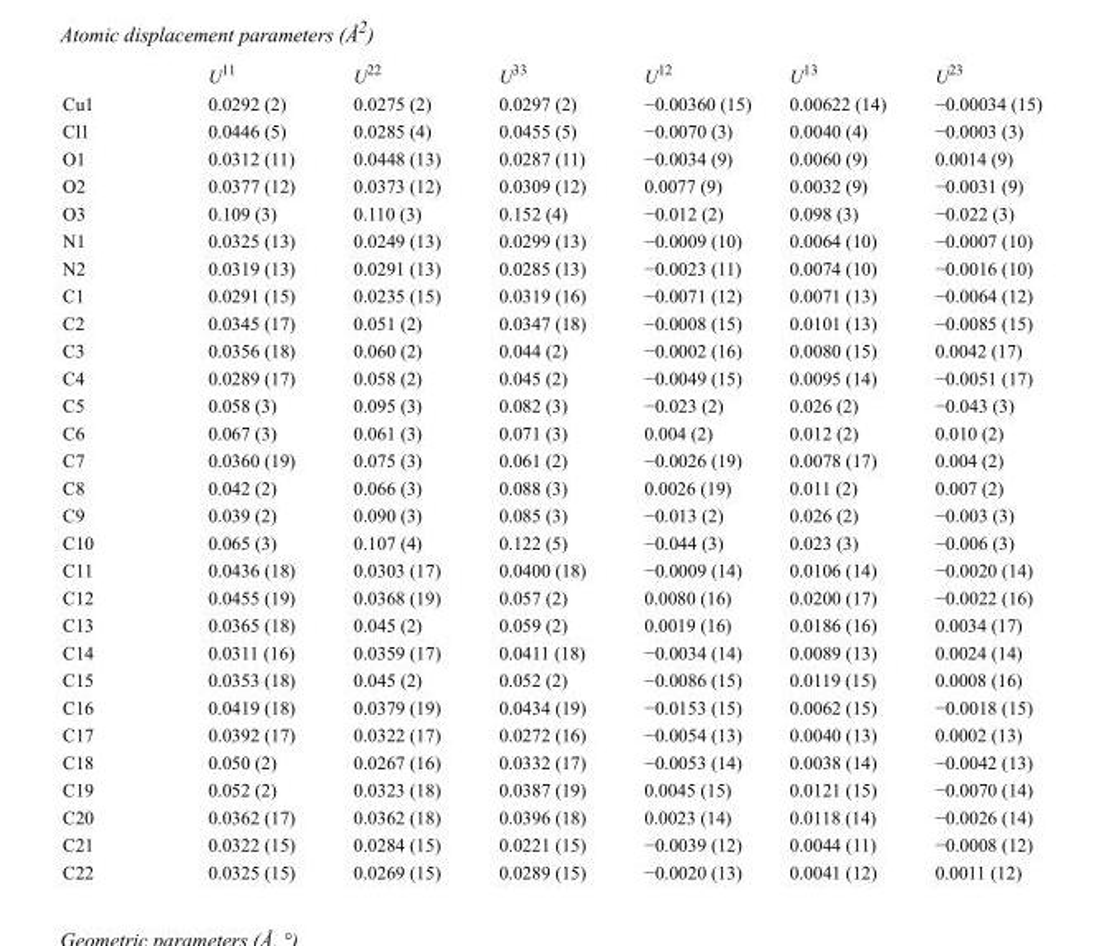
<table><thead><tr><td></td><td>U<sup>11</sup></td><td>U<sup>22</sup></td><td>U<sup>33</sup></td><td>U<sup>12</sup></td><td>U<sup>13</sup></td><td>U<sup>23</sup></td></tr></thead><tbody><tr><td>Cu1</td><td>0.0292 (2)</td><td>0.0275 (2)</td><td>0.0297 (2)</td><td>−0.00360 (15)</td><td>0.00622 (14)</td><td>−0.00034 (15)</td></tr><tr><td>Cl1</td><td>0.0446 (5)</td><td>0.0285 (4)</td><td>0.0455 (5)</td><td>−0.0070 (3)</td><td>0.0040 (4)</td><td>−0.0003 (3)</td></tr><tr><td>O1</td><td>0.0312 (11)</td><td>0.0448 (13)</td><td>0.0287 (11)</td><td>−0.0034 (9)</td><td>0.0060 (9)</td><td>0.0014 (9)</td></tr><tr><td>O2</td><td>0.0377 (12)</td><td>0.0373 (12)</td><td>0.0309 (12)</td><td>0.0077 (9)</td><td>0.0032 (9)</td><td>−0.0031 (9)</td></tr><tr><td>O3</td><td>0.109 (3)</td><td>0.110 (3)</td><td>0.152 (4)</td><td>−0.012 (2)</td><td>0.098 (3)</td><td>−0.022 (3)</td></tr><tr><td>N1</td><td>0.0325 (13)</td><td>0.0249 (13)</td><td>0.0299 (13)</td><td>−0.0009 (10)</td><td>0.0064 (10)</td><td>−0.0007 (10)</td></tr><tr><td>N2</td><td>0.0319 (13)</td><td>0.0291 (13)</td><td>0.0285 (13)</td><td>−0.0023 (11)</td><td>0.0074 (10)</td><td>−0.0016 (10)</td></tr><tr><td>C1</td><td>0.0291 (15)</td><td>0.0235 (15)</td><td>0.0319 (16)</td><td>−0.0071 (12)</td><td>0.0071 (13)</td><td>−0.0064 (12)</td></tr><tr><td>C2</td><td>0.0345 (17)</td><td>0.051 (2)</td><td>0.0347 (18)</td><td>−0.0008 (15)</td><td>0.0101 (13)</td><td>−0.0085 (15)</td></tr><tr><td>C3</td><td>0.0356 (18)</td><td>0.060 (2)</td><td>0.044 (2)</td><td>−0.0002 (16)</td><td>0.0080 (15)</td><td>0.0042 (17)</td></tr><tr><td>C4</td><td>0.0289 (17)</td><td>0.058 (2)</td><td>0.045 (2)</td><td>−0.0049 (15)</td><td>0.0095 (14)</td><td>−0.0051 (17)</td></tr><tr><td>C5</td><td>0.058 (3)</td><td>0.095 (3)</td><td>0.082 (3)</td><td>−0.023 (2)</td><td>0.026 (2)</td><td>−0.043 (3)</td></tr><tr><td>C6</td><td>0.067 (3)</td><td>0.061 (3)</td><td>0.071 (3)</td><td>0.004 (2)</td><td>0.012 (2)</td><td>0.010 (2)</td></tr><tr><td>C7</td><td>0.0360 (19)</td><td>0.075 (3)</td><td>0.061 (2)</td><td>−0.0026 (19)</td><td>0.0078 (17)</td><td>0.004 (2)</td></tr><tr><td>C8</td><td>0.042 (2)</td><td>0.066 (3)</td><td>0.088 (3)</td><td>0.0026 (19)</td><td>0.011 (2)</td><td>0.007 (2)</td></tr><tr><td>C9</td><td>0.039 (2)</td><td>0.090 (3)</td><td>0.085 (3)</td><td>−0.013 (2)</td><td>0.026 (2)</td><td>−0.003 (3)</td></tr><tr><td>C10</td><td>0.065 (3)</td><td>0.107 (4)</td><td>0.122 (5)</td><td>−0.044 (3)</td><td>0.023 (3)</td><td>−0.006 (3)</td></tr><tr><td>C11</td><td>0.0436 (18)</td><td>0.0303 (17)</td><td>0.0400 (18)</td><td>−0.0009 (14)</td><td>0.0106 (14)</td><td>−0.0020 (14)</td></tr><tr><td>C12</td><td>0.0455 (19)</td><td>0.0368 (19)</td><td>0.057 (2)</td><td>0.0080 (16)</td><td>0.0200 (17)</td><td>−0.0022 (16)</td></tr><tr><td>C13</td><td>0.0365 (18)</td><td>0.045 (2)</td><td>0.059 (2)</td><td>0.0019 (16)</td><td>0.0186 (16)</td><td>0.0034 (17)</td></tr><tr><td>C14</td><td>0.0311 (16)</td><td>0.0359 (17)</td><td>0.0411 (18)</td><td>−0.0034 (14)</td><td>0.0089 (13)</td><td>0.0024 (14)</td></tr><tr><td>C15</td><td>0.0353 (18)</td><td>0.045 (2)</td><td>0.052 (2)</td><td>−0.0086 (15)</td><td>0.0119 (15)</td><td>0.0008 (16)</td></tr><tr><td>C16</td><td>0.0419 (18)</td><td>0.0379 (19)</td><td>0.0434 (19)</td><td>−0.0153 (15)</td><td>0.0062 (15)</td><td>−0.0018 (15)</td></tr><tr><td>C17</td><td>0.0392 (17)</td><td>0.0322 (17)</td><td>0.0272 (16)</td><td>−0.0054 (13)</td><td>0.0040 (13)</td><td>0.0002 (13)</td></tr><tr><td>C18</td><td>0.050 (2)</td><td>0.0267 (16)</td><td>0.0332 (17)</td><td>−0.0053 (14)</td><td>0.0038 (14)</td><td>−0.0042 (13)</td></tr><tr><td>C19</td><td>0.052 (2)</td><td>0.0323 (18)</td><td>0.0387 (19)</td><td>0.0045 (15)</td><td>0.0121 (15)</td><td>−0.0070 (14)</td></tr><tr><td>C20</td><td>0.0362 (17)</td><td>0.0362 (18)</td><td>0.0396 (18)</td><td>0.0023 (14)</td><td>0.0118 (14)</td><td>−0.0026 (14)</td></tr><tr><td>C21</td><td>0.0322 (15)</td><td>0.0284 (15)</td><td>0.0221 (15)</td><td>−0.0039 (12)</td><td>0.0044 (11)</td><td>−0.0008 (12)</td></tr><tr><td>C22</td><td>0.0325 (15)</td><td>0.0269 (15)</td><td>0.0289 (15)</td><td>−0.0020 (13)</td><td>0.0041 (12)</td><td>0.0011 (12)</td></tr></tbody></table>